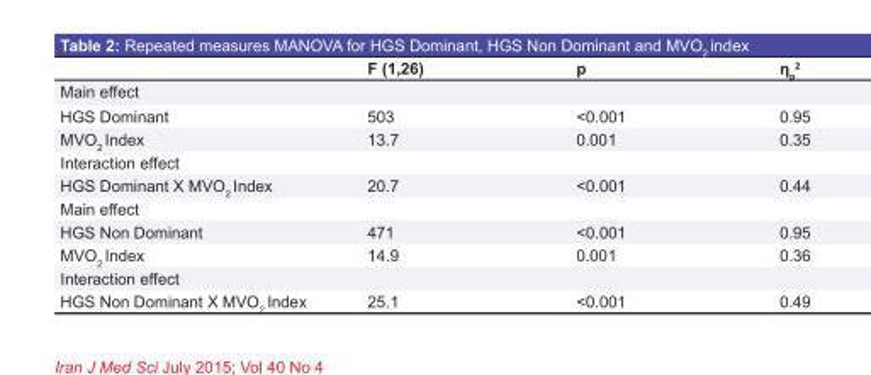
<table><thead><tr><td></td><td>F (1,26)</td><td>p</td><td>η<sub>p</sub> <sup>2</sup></td></tr></thead><tbody><tr><td colspan="4">Main effect</td></tr><tr><td>HGS Dominant</td><td>503</td><td>&lt;0.001</td><td>0.95</td></tr><tr><td>MVO<sub>2</sub> Index</td><td>13.7</td><td>0.001</td><td>0.35</td></tr><tr><td colspan="4">Interaction effect</td></tr><tr><td>HGS Dominant X MVO<sub>2</sub> Index</td><td>20.7</td><td>&lt;0.001</td><td>0.44</td></tr><tr><td colspan="4">Main effect</td></tr><tr><td>HGS Non Dominant</td><td>471</td><td>&lt;0.001</td><td>0.95</td></tr><tr><td>MVO<sub>2</sub> Index</td><td>14.9</td><td>0.001</td><td>0.36</td></tr><tr><td colspan="4">Interaction effect</td></tr><tr><td>HGS Non Dominant X MVO<sub>2</sub> Index</td><td>25.1</td><td>&lt;0.001</td><td>0.49</td></tr></tbody></table>